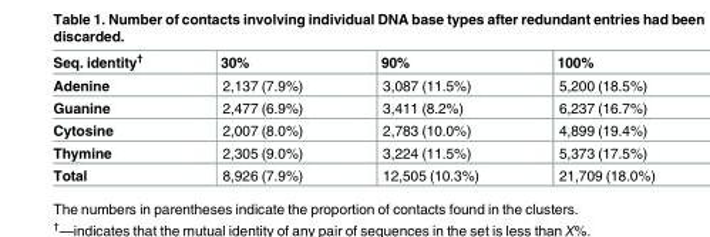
<table><thead><tr><td>Seq. identity<sup>†</sup></td><td>30%</td><td>90%</td><td>100%</td></tr></thead><tbody><tr><td>Adenine</td><td>2,137 (7.9%)</td><td>3,087 (11.5%)</td><td>5,200 (18.5%)</td></tr><tr><td>Guanine</td><td>2,477 (6.9%)</td><td>3,411 (8.2%)</td><td>6,237 (16.7%)</td></tr><tr><td>Cytosine</td><td>2,007 (8.0%)</td><td>2,783 (10.0%)</td><td>4,899 (19.4%)</td></tr><tr><td>Thymine</td><td>2,305 (9.0%)</td><td>3,224 (11.5%)</td><td>5,373 (17.5%)</td></tr><tr><td>Total</td><td>8,926 (7.9%)</td><td>12,505 (10.3%)</td><td>21,709 (18.0%)</td></tr></tbody></table>